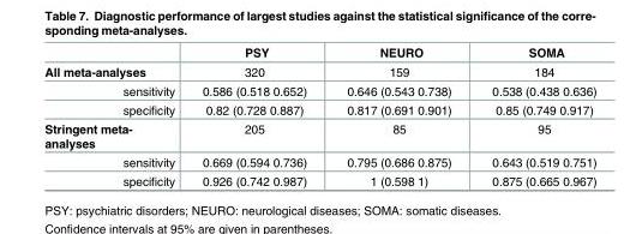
<table><thead><tr><td></td><td>PSY</td><td>NEURO</td><td>SOMA</td></tr></thead><tbody><tr><td>All meta-analyses</td><td>320</td><td>159</td><td>184</td></tr><tr><td>sensitivity</td><td>0.586 (0.518 0.652)</td><td>0.646 (0.543 0.738)</td><td>0.538 (0.438 0.636)</td></tr><tr><td>specificity</td><td>0.82 (0.728 0.887)</td><td>0.817 (0.691 0.901)</td><td>0.85 (0.749 0.917)</td></tr><tr><td>Stringent meta- analyses</td><td>205</td><td>85</td><td>95</td></tr><tr><td>sensitivity</td><td>0.669 (0.594 0.736)</td><td>0.795 (0.686 0.875)</td><td>0.643 (0.519 0.751)</td></tr><tr><td>specificity</td><td>0.926 (0.742 0.987)</td><td>1 (0.598 1)</td><td>0.875 (0.665 0.967)</td></tr></tbody></table>